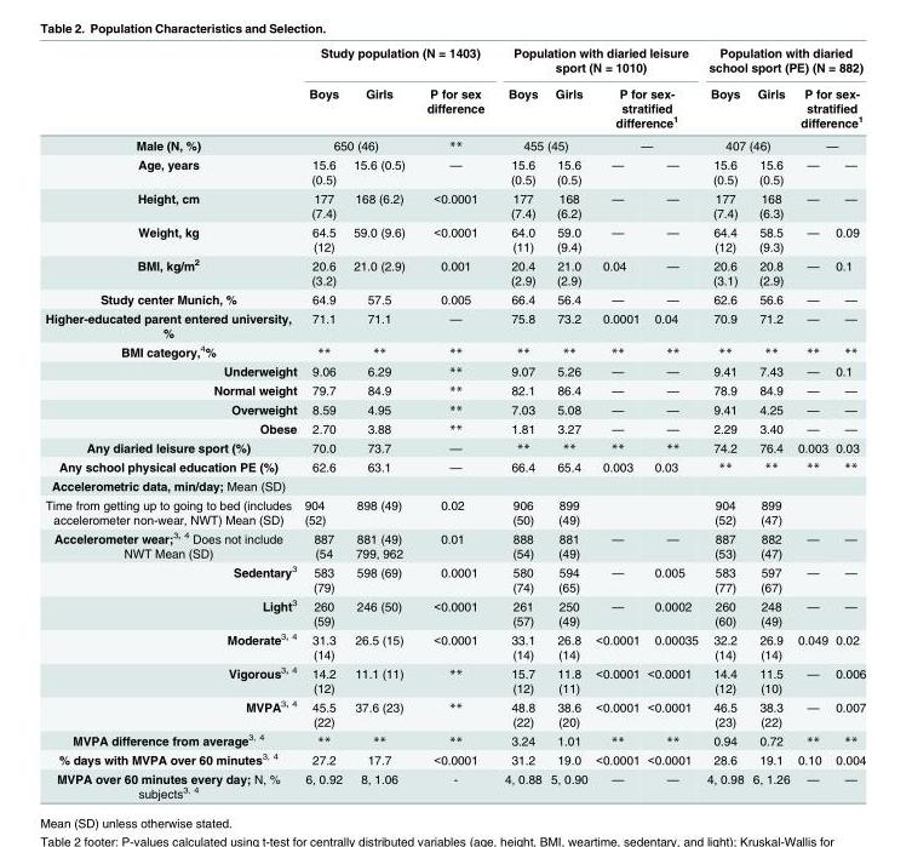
<table><thead><tr><td rowspan="4">Male (N, %) Age, years</td><td colspan="3">Study population (N = 1403)</td><td colspan="4">Population with diaried leisure sport (N = 1010)</td><td colspan="4">Population with diaried school sport (PE) (N = 882)</td></tr><tr><td>Boys</td><td>Girls</td><td rowspan="3">P for sex difference ** —</td><td>Boys</td><td>Girls</td><td rowspan="2" colspan="2">P for sex- stratified difference1 —</td><td>Boys</td><td>Girls</td><td rowspan="2" colspan="2">P for sex- stratified difference1 —</td></tr><tr><td colspan="2">650 (46)</td><td colspan="2">455 (45)</td><td colspan="2">407 (46)</td></tr><tr><td>15.6 (0.5)</td><td>15.6 (0.5)</td><td>15.6 (0.5)</td><td>15.6 (0.5)</td><td>—</td><td>—</td><td>15.6 (0.5)</td><td>15.6 (0.5)</td><td>—</td><td>—</td></tr></thead><tbody><tr><td>Height, cm</td><td>177 (7.4)</td><td>168 (6.2)</td><td>&lt;0.0001</td><td>177 (7.4)</td><td>168 (6.2)</td><td>—</td><td>—</td><td>177 (7.4)</td><td>168 (6.3)</td><td>—</td><td>—</td></tr><tr><td>Weight, kg</td><td>64.5 (12)</td><td>59.0 (9.6)</td><td>&lt;0.0001</td><td>64.0 (11)</td><td>59.0 (9.4)</td><td>—</td><td>—</td><td>64.4 (12)</td><td>58.5 (9.3)</td><td>—</td><td>0.09</td></tr><tr><td>BMI, kg/m<sup>2</sup></td><td>20.6 (3.2)</td><td>21.0 (2.9)</td><td>0.001</td><td>20.4 (2.9)</td><td>21.0 (2.9)</td><td>0.04</td><td>—</td><td>20.6 (3.1)</td><td>20.8 (2.9)</td><td>—</td><td>0.1</td></tr><tr><td>Study center Munich, %</td><td>64.9</td><td>57.5</td><td>0.005</td><td>66.4</td><td>56.4</td><td>—</td><td>—</td><td>62.6</td><td>56.6</td><td>—</td><td>—</td></tr><tr><td>Higher-educated parent entered university, %</td><td>71.1</td><td>71.1</td><td>—</td><td>75.8</td><td>73.2</td><td>0.0001</td><td>0.04</td><td>70.9</td><td>71.2</td><td>—</td><td>—</td></tr><tr><td>BMI category,<sup>4</sup>%</td><td>**</td><td>**</td><td>**</td><td>**</td><td>**</td><td>**</td><td>**</td><td>**</td><td>**</td><td>**</td><td>**</td></tr><tr><td>Underweight</td><td>9.06</td><td>6.29</td><td>**</td><td>9.07</td><td>5.26</td><td>—</td><td>—</td><td>9.41</td><td>7.43</td><td>—</td><td>0.1</td></tr><tr><td>Normal weight</td><td>79.7</td><td>84.9</td><td>**</td><td>82.1</td><td>86.4</td><td>—</td><td>—</td><td>78.9</td><td>84.9</td><td>—</td><td>—</td></tr><tr><td>Overweight</td><td>8.59</td><td>4.95</td><td>**</td><td>7.03</td><td>5.08</td><td>—</td><td>—</td><td>9.41</td><td>4.25</td><td>—</td><td>—</td></tr><tr><td>Obese</td><td>2.70</td><td>3.88</td><td>**</td><td>1.81</td><td>3.27</td><td>—</td><td>—</td><td>2.29</td><td>3.40</td><td>—</td><td>—</td></tr><tr><td>Any diaried leisure sport (%)</td><td>70.0</td><td>73.7</td><td>—</td><td>**</td><td>**</td><td>**</td><td>**</td><td>74.2</td><td>76.4</td><td>0.003</td><td>0.03</td></tr><tr><td>Any school physical education PE (%)</td><td>62.6</td><td>63.1</td><td>—</td><td>66.4</td><td>65.4</td><td>0.003</td><td>0.03</td><td>**</td><td>**</td><td>**</td><td>**</td></tr><tr><td colspan="12">Accelerometric data, min/day; Mean (SD)</td></tr><tr><td>Time from getting up to going to bed (includes accelerometer non-wear, NWT) Mean (SD)</td><td>904 (52)</td><td>898 (49)</td><td>0.02</td><td>906 (50)</td><td>899 (49)</td><td></td><td></td><td>904 (52)</td><td>899 (47)</td><td></td><td></td></tr><tr><td>Accelerometer wear;<sup>3, 4</sup> Does not include NWT Mean (SD)</td><td>887 (54</td><td>881 (49) 799, 962</td><td>0.01</td><td>888 (54)</td><td>881 (49)</td><td>—</td><td>—</td><td>887 (53)</td><td>882 (47)</td><td>—</td><td>—</td></tr><tr><td>Sedentary<sup>3</sup></td><td>583 (79)</td><td>598 (69)</td><td>0.0001</td><td>580 (74)</td><td>594 (65)</td><td>—</td><td>0.005</td><td>583 (77)</td><td>597 (67)</td><td>—</td><td>—</td></tr><tr><td>Light<sup>3</sup></td><td>260 (59)</td><td>246 (50)</td><td>&lt;0.0001</td><td>261 (57)</td><td>250 (49)</td><td>—</td><td>0.0002</td><td>260 (60)</td><td>248 (49)</td><td>—</td><td>—</td></tr><tr><td>Moderate<sup>3, 4</sup></td><td>31.3 (14)</td><td>26.5 (15)</td><td>&lt;0.0001</td><td>33.1 (14)</td><td>26.8 (14)</td><td>&lt;0.0001</td><td>0.00035</td><td>32.2 (14)</td><td>26.9 (14)</td><td>0.049</td><td>0.02</td></tr><tr><td>Vigorous<sup>3, 4</sup></td><td>14.2 (12)</td><td>11.1 (11)</td><td>**</td><td>15.7 (12)</td><td>11.8 (11)</td><td>&lt;0.0001</td><td>&lt;0.0001</td><td>14.4 (12)</td><td>11.5 (10)</td><td>—</td><td>0.006</td></tr><tr><td>MVPA<sup>3, 4</sup></td><td>45.5 (22)</td><td>37.6 (23)</td><td>**</td><td>48.8 (22)</td><td>38.6 (20)</td><td>&lt;0.0001</td><td>&lt;0.0001</td><td>46.5 (23)</td><td>38.3 (22)</td><td>—</td><td>0.007</td></tr><tr><td>MVPA difference from average<sup>3, 4</sup></td><td>**</td><td>**</td><td>**</td><td>3.24</td><td>1.01</td><td>**</td><td>**</td><td>0.94</td><td>0.72</td><td>**</td><td>**</td></tr><tr><td>% days with MVPA over 60 minutes<sup>3, 4</sup></td><td>27.2</td><td>17.7</td><td>&lt;0.0001</td><td>31.2</td><td>19.0</td><td>&lt;0.0001</td><td>&lt;0.0001</td><td>28.6</td><td>19.1</td><td>0.10</td><td>0.004</td></tr><tr><td>MVPA over 60 minutes every day; N, % subjects<sup>3, 4</sup></td><td>6, 0.92</td><td>8, 1.06</td><td>-</td><td>4, 0.88</td><td>5, 0.90</td><td>—</td><td>—</td><td>4, 0.98</td><td>6, 1.26</td><td>—</td><td>—</td></tr></tbody></table>